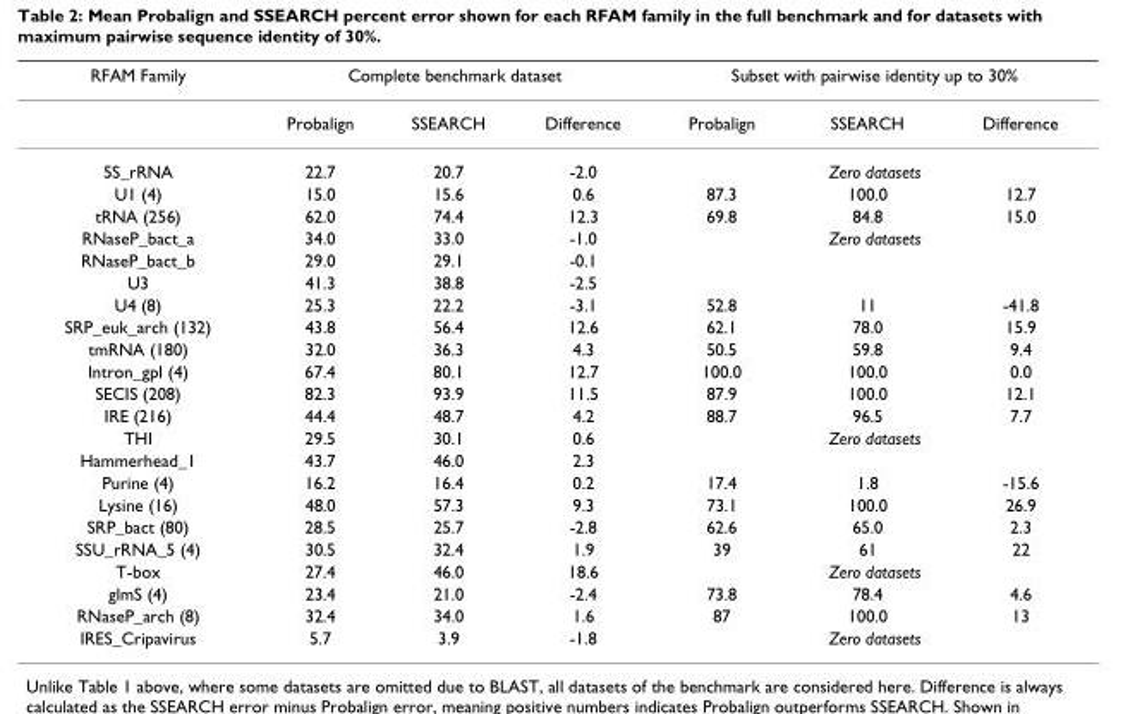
<table><thead><tr><td rowspan="2">RFAM Family</td><td colspan="3">Complete benchmark dataset</td><td colspan="3">Subset with pairwise identity up to 30%</td></tr><tr><td>Probalign</td><td>SSEARCH</td><td>Difference</td><td>Probalign</td><td>SSEARCH</td><td>Difference</td></tr></thead><tbody><tr><td>5S_rRNA</td><td>22.7</td><td>20.7</td><td>-2.0</td><td colspan="3">Zero datasets</td></tr><tr><td>U1 (4)</td><td>15.0</td><td>15.6</td><td>0.6</td><td>87.3</td><td>100.0</td><td>12.7</td></tr><tr><td>tRNA (256)</td><td>62.0</td><td>74.4</td><td>12.3</td><td>69.8</td><td>84.8</td><td>15.0</td></tr><tr><td>RNaseP_bact_a</td><td>34.0</td><td>33.0</td><td>-1.0</td><td colspan="3">Zero datasets</td></tr><tr><td>RNaseP_bact_b</td><td>29.0</td><td>29.1</td><td>-0.1</td><td></td><td></td><td></td></tr><tr><td>U3</td><td>41.3</td><td>38.8</td><td>-2.5</td><td></td><td></td><td></td></tr><tr><td>U4 (8)</td><td>25.3</td><td>22.2</td><td>-3.1</td><td>52.8</td><td>11</td><td>-41.8</td></tr><tr><td>SRP_euk_arch (132)</td><td>43.8</td><td>56.4</td><td>12.6</td><td>62.1</td><td>78.0</td><td>15.9</td></tr><tr><td>tmRNA (180)</td><td>32.0</td><td>36.3</td><td>4.3</td><td>50.5</td><td>59.8</td><td>9.4</td></tr><tr><td>Intron_gpI (4)</td><td>67.4</td><td>80.1</td><td>12.7</td><td>100.0</td><td>100.0</td><td>0.0</td></tr><tr><td>SECIS (208)</td><td>82.3</td><td>93.9</td><td>11.5</td><td>87.9</td><td>100.0</td><td>12.1</td></tr><tr><td>IRE (216)</td><td>44.4</td><td>48.7</td><td>4.2</td><td>88.7</td><td>96.5</td><td>7.7</td></tr><tr><td>THI</td><td>29.5</td><td>30.1</td><td>0.6</td><td colspan="3">Zero datasets</td></tr><tr><td>Hammerhead_1</td><td>43.7</td><td>46.0</td><td>2.3</td><td></td><td></td><td></td></tr><tr><td>Purine (4)</td><td>16.2</td><td>16.4</td><td>0.2</td><td>17.4</td><td>1.8</td><td>-15.6</td></tr><tr><td>Lysine (16)</td><td>48.0</td><td>57.3</td><td>9.3</td><td>73.1</td><td>100.0</td><td>26.9</td></tr><tr><td>SRP_bact (80)</td><td>28.5</td><td>25.7</td><td>-2.8</td><td>62.6</td><td>65.0</td><td>2.3</td></tr><tr><td>SSU_rRNA_5 (4)</td><td>30.5</td><td>32.4</td><td>1.9</td><td>39</td><td>61</td><td>22</td></tr><tr><td>T-box</td><td>27.4</td><td>46.0</td><td>18.6</td><td colspan="3">Zero datasets</td></tr><tr><td>glmS (4)</td><td>23.4</td><td>21.0</td><td>-2.4</td><td>73.8</td><td>78.4</td><td>4.6</td></tr><tr><td>RNaseP_arch (8)</td><td>32.4</td><td>34.0</td><td>1.6</td><td>87</td><td>100.0</td><td>13</td></tr><tr><td>IRES_Cripavirus</td><td>5.7</td><td>3.9</td><td>-1.8</td><td colspan="3">Zero datasets</td></tr></tbody></table>